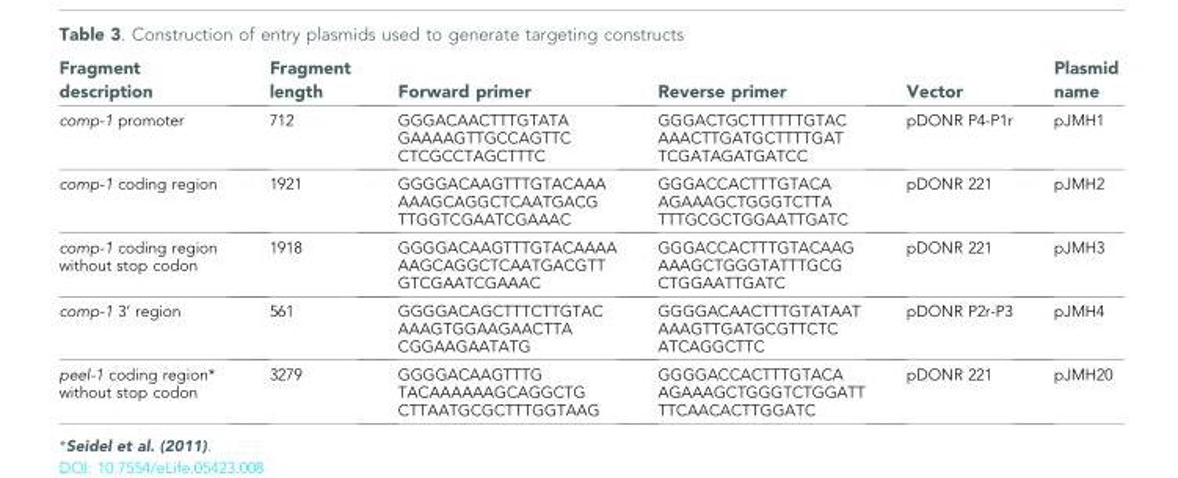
<table><thead><tr><td>Fragment description</td><td>Fragment length</td><td>Forward primer</td><td>Reverse primer</td><td>Vector</td><td>Plasmid name</td></tr></thead><tbody><tr><td>comp-1 promoter</td><td>712</td><td>GGGACAACTTTGTATA GAAAAGTTGCCAGTTC CTCGCCTAGCTTTC</td><td>GGGACTGCTTTTTTGTAC AAACTTGATGCTTTTGAT TCGATAGATGATCC</td><td>pDONR P4-P1r</td><td>pJMH1</td></tr><tr><td>comp-1 coding region</td><td>1921</td><td>GGGGACAAGTTTGTACAAA AAAGCAGGCTCAATGACG TTGGTCGAATCGAAAC</td><td>GGGACCACTTTGTACA AGAAAGCTGGGTCTTA TTTGCGCTGGAATTGATC</td><td>pDONR 221</td><td>pJMH2</td></tr><tr><td>comp-1 coding region without stop codon</td><td>1918</td><td>GGGGACAAGTTTGTACAAAA AAGCAGGCTCAATGACGTT GTCGAATCGAAAC</td><td>GGGACCACTTTGTACAAG AAAGCTGGGTATTTGCG CTGGAATTGATC</td><td>pDONR 221</td><td>pJMH3</td></tr><tr><td>comp-1 3’ region</td><td>561</td><td>GGGGACAGCTTTCTTGTAC AAAGTGGAAGAACTTA CGGAAGAATATG</td><td>GGGGACAACTTTGTATAAT AAAGTTGATGCGTTCTC ATCAGGCTTC</td><td>pDONR P2r-P3</td><td>pJMH4</td></tr><tr><td>peel-1 coding region* without stop codon</td><td>3279</td><td>GGGGACAAGTTTG TACAAAAAAGCAGGCTG CTTAATGCGCTTTGGTAAG</td><td>GGGGACCACTTTGTACA AGAAAGCTGGGTCTGGATT TTCAACACTTGGATC</td><td>pDONR 221</td><td>pJMH20</td></tr></tbody></table>